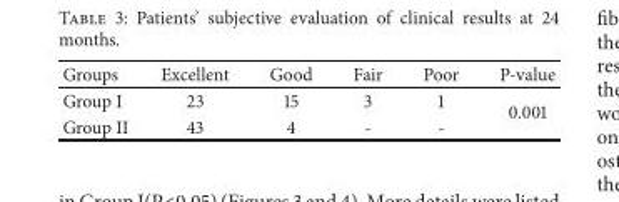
<table><thead><tr><td>Groups</td><td>Excellent</td><td>Good</td><td>Fair</td><td>Poor</td><td>P-value</td></tr></thead><tbody><tr><td>Group I</td><td>23</td><td>15</td><td>3</td><td>1</td><td rowspan="2">0.001</td></tr><tr><td>Group II</td><td>43</td><td>4</td><td>-</td><td>-</td></tr></tbody></table>